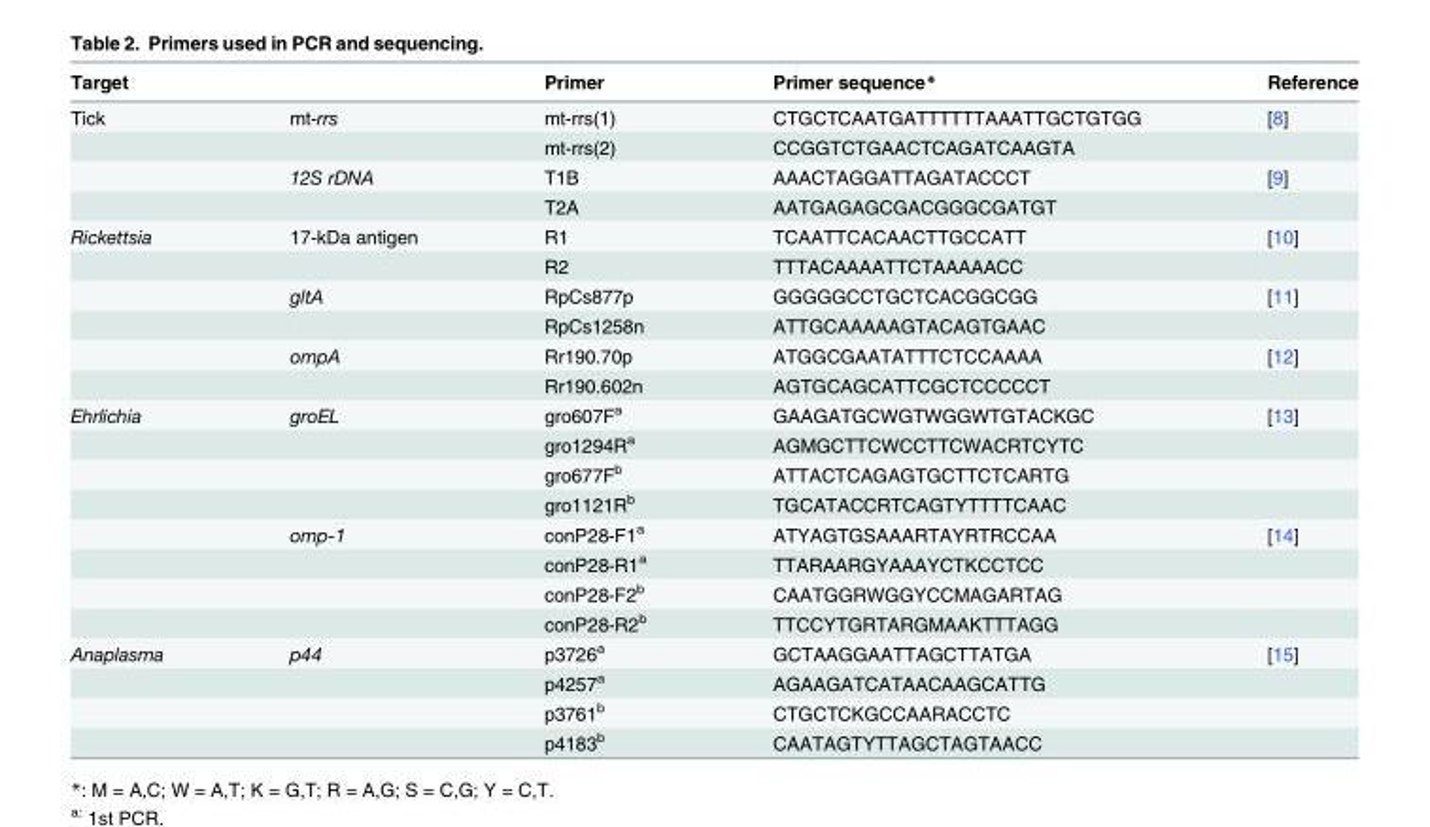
<table><thead><tr><td>Target</td><td></td><td>Primer</td><td>Primer sequence*</td><td>Reference</td></tr></thead><tbody><tr><td rowspan="4">Tick</td><td>mt-rrs</td><td>mt-rrs(1)</td><td>CTGCTCAATGATTTTTTAAATTGCTGTGG</td><td>[8]</td></tr><tr><td></td><td>mt-rrs(2)</td><td>CCGGTCTGAACTCAGATCAAGTA</td><td></td></tr><tr><td>12S rDNA</td><td>T1B</td><td>AAACTAGGATTAGATACCCT</td><td>[9]</td></tr><tr><td></td><td>T2A</td><td>AATGAGAGCGACGGGCGATGT</td><td></td></tr><tr><td rowspan="6">Rickettsia</td><td>17-kDa antigen</td><td>R1</td><td>TCAATTCACAACTTGCCATT</td><td>[10]</td></tr><tr><td></td><td>R2</td><td>TTTACAAAATTCTAAAAACC</td><td></td></tr><tr><td>gltA</td><td>RpCs877p</td><td>GGGGGCCTGCTCACGGCGG</td><td>[11]</td></tr><tr><td></td><td>RpCs1258n</td><td>ATTGCAAAAAGTACAGTGAAC</td><td></td></tr><tr><td>ompA</td><td>Rr190.70p</td><td>ATGGCGAATATTTCTCCAAAA</td><td>[12]</td></tr><tr><td></td><td>Rr190.602n</td><td>AGTGCAGCATTCGCTCCCCCT</td><td></td></tr><tr><td rowspan="8">Ehrlichia</td><td>groEL</td><td>gro607F<sup>a</sup></td><td>GAAGATGCWGTWGGWTGTACKGC</td><td>[13]</td></tr><tr><td></td><td>gro1294R<sup>a</sup></td><td>AGMGCTTCWCCTTCWACRTCYTC</td><td></td></tr><tr><td></td><td>gro677F<sup>b</sup></td><td>ATTACTCAGAGTGCTTCTCARTG</td><td></td></tr><tr><td></td><td>gro1121R<sup>b</sup></td><td>TGCATACCRTCAGTYTTTTCAAC</td><td></td></tr><tr><td>omp-1</td><td>conP28-F1<sup>a</sup></td><td>ATYAGTGSAAARTAYRTRCCAA</td><td>[14]</td></tr><tr><td></td><td>conP28-R1<sup>a</sup></td><td>TTARAARGYAAAYCTKCCTCC</td><td></td></tr><tr><td></td><td>conP28-F2<sup>b</sup></td><td>CAATGGRWGGYCCMAGARTAG</td><td></td></tr><tr><td></td><td>conP28-R2<sup>b</sup></td><td>TTCCYTGRTARGMAAKTTTAGG</td><td></td></tr><tr><td rowspan="4">Anaplasma</td><td>p44</td><td>p3726<sup>a</sup></td><td>GCTAAGGAATTAGCTTATGA</td><td>[15]</td></tr><tr><td></td><td>p4257<sup>a</sup></td><td>AGAAGATCATAACAAGCATTG</td><td></td></tr><tr><td></td><td>p3761<sup>b</sup></td><td>CTGCTCKGCCAARACCTC</td><td></td></tr><tr><td></td><td>p4183<sup>b</sup></td><td>CAATAGTYTTAGCTAGTAACC</td><td></td></tr></tbody></table>